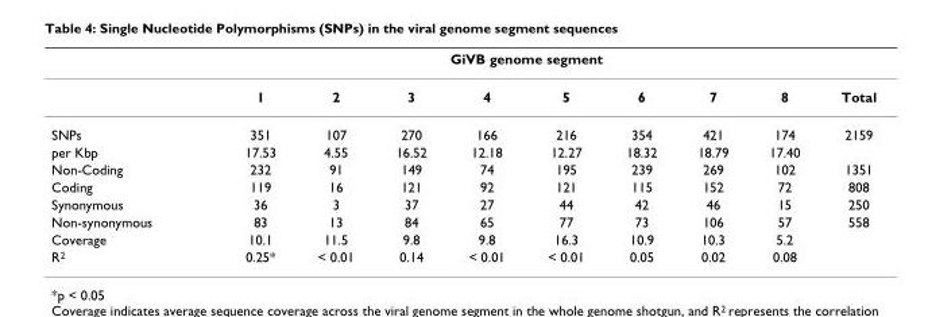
<table><thead><tr><td rowspan="2"></td><td rowspan="2">1</td><td rowspan="2">2</td><td colspan="4">GiVB genome segment</td><td rowspan="2">7</td><td rowspan="2">8</td><td rowspan="2">Total</td></tr><tr><td>3</td><td>4</td><td>5</td><td>6</td></tr></thead><tbody><tr><td>SNPs</td><td>351</td><td>107</td><td>270</td><td>166</td><td>216</td><td>354</td><td>421</td><td>174</td><td>2159</td></tr><tr><td>per Kbp</td><td>17.53</td><td>4.55</td><td>16.52</td><td>12.18</td><td>12.27</td><td>18.32</td><td>18.79</td><td>17.40</td><td></td></tr><tr><td>Non-Coding</td><td>232</td><td>91</td><td>149</td><td>74</td><td>195</td><td>239</td><td>269</td><td>102</td><td>1351</td></tr><tr><td>Coding</td><td>119</td><td>16</td><td>121</td><td>92</td><td>121</td><td>115</td><td>152</td><td>72</td><td>808</td></tr><tr><td>Synonymous</td><td>36</td><td>3</td><td>37</td><td>27</td><td>44</td><td>42</td><td>46</td><td>15</td><td>250</td></tr><tr><td>Non-synonymous</td><td>83</td><td>13</td><td>84</td><td>65</td><td>77</td><td>73</td><td>106</td><td>57</td><td>558</td></tr><tr><td>Coverage</td><td>10.1</td><td>11.5</td><td>9.8</td><td>9.8</td><td>16.3</td><td>10.9</td><td>10.3</td><td>5.2</td><td></td></tr><tr><td>R<sup>2</sup></td><td>0.25*</td><td>&lt; 0.01</td><td>0.14</td><td>&lt; 0.01</td><td>&lt; 0.01</td><td>0.05</td><td>0.02</td><td>0.08</td><td></td></tr></tbody></table>